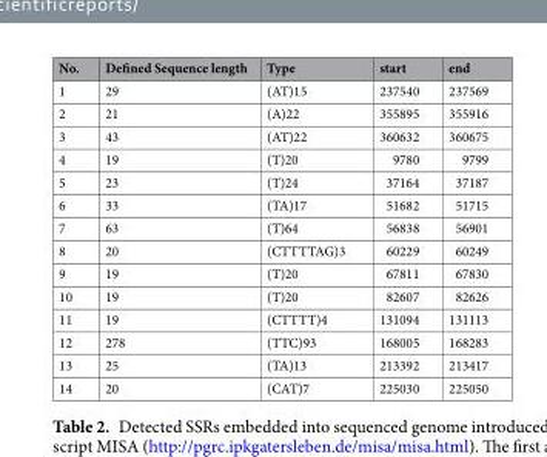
<table><thead><tr><td>No.</td><td>Defined Sequence length</td><td>Type</td><td>start</td><td>end</td></tr></thead><tbody><tr><td>1</td><td>29</td><td>(AT)15</td><td>237540</td><td>237569</td></tr><tr><td>2</td><td>21</td><td>(A)22</td><td>355895</td><td>355916</td></tr><tr><td>3</td><td>43</td><td>(AT)22</td><td>360632</td><td>360675</td></tr><tr><td>4</td><td>19</td><td>(T)20</td><td>9780</td><td>9799</td></tr><tr><td>5</td><td>23</td><td>(T)24</td><td>37164</td><td>37187</td></tr><tr><td>6</td><td>33</td><td>(TA)17</td><td>51682</td><td>51715</td></tr><tr><td>7</td><td>63</td><td>(T)64</td><td>56838</td><td>56901</td></tr><tr><td>8</td><td>20</td><td>(CTTTTAG)3</td><td>60229</td><td>60249</td></tr><tr><td>9</td><td>19</td><td>(T)20</td><td>67811</td><td>67830</td></tr><tr><td>10</td><td>19</td><td>(T)20</td><td>82607</td><td>82626</td></tr><tr><td>11</td><td>19</td><td>(CTTTT)4</td><td>131094</td><td>131113</td></tr><tr><td>12</td><td>278</td><td>(TTC)93</td><td>168005</td><td>168283</td></tr><tr><td>13</td><td>25</td><td>(TA)13</td><td>213392</td><td>213417</td></tr><tr><td>14</td><td>20</td><td>(CAT)7</td><td>225030</td><td>225050</td></tr></tbody></table>